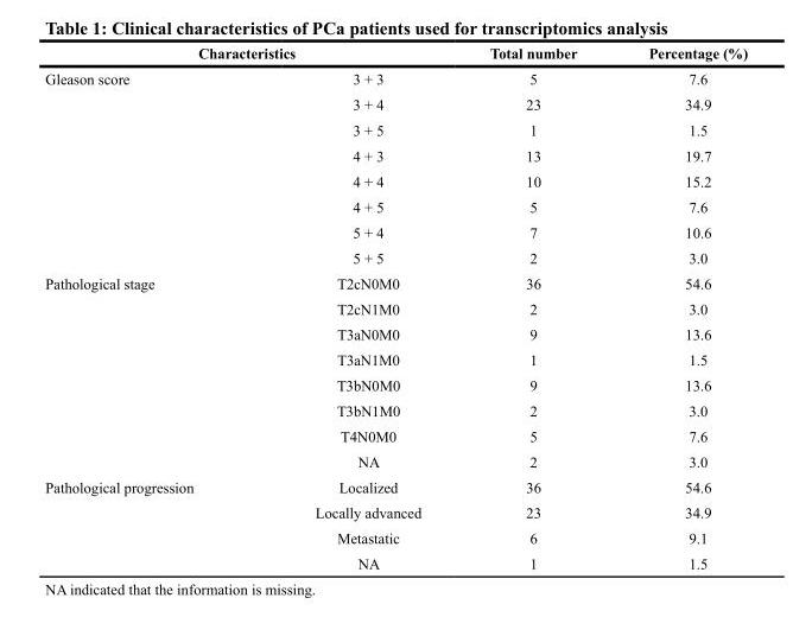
<table><thead><tr><td colspan="2">Characteristics</td><td rowspan="2">Total number 5</td><td rowspan="2">Percentage (%) 7.6</td></tr><tr><td>Gleason score</td><td>3 + 3</td></tr></thead><tbody><tr><td></td><td>3 + 4</td><td>23</td><td>34.9</td></tr><tr><td></td><td>3 + 5</td><td>1</td><td>1.5</td></tr><tr><td></td><td>4 + 3</td><td>13</td><td>19.7</td></tr><tr><td></td><td>4 + 4</td><td>10</td><td>15.2</td></tr><tr><td></td><td>4 + 5</td><td>5</td><td>7.6</td></tr><tr><td></td><td>5 + 4</td><td>7</td><td>10.6</td></tr><tr><td></td><td>5 + 5</td><td>2</td><td>3.0</td></tr><tr><td rowspan="8">Pathological stage</td><td>T2cN0M0</td><td>36</td><td>54.6</td></tr><tr><td>T2cN1M0</td><td>2</td><td>3.0</td></tr><tr><td>T3aN0M0</td><td>9</td><td>13.6</td></tr><tr><td>T3aN1M0</td><td>1</td><td>1.5</td></tr><tr><td>T3bN0M0</td><td>9</td><td>13.6</td></tr><tr><td>T3bN1M0</td><td>2</td><td>3.0</td></tr><tr><td>T4N0M0</td><td>5</td><td>7.6</td></tr><tr><td>NA</td><td>2</td><td>3.0</td></tr><tr><td rowspan="4">Pathological progression</td><td>Localized</td><td>36</td><td>54.6</td></tr><tr><td>Locally advanced</td><td>23</td><td>34.9</td></tr><tr><td>Metastatic</td><td>6</td><td>9.1</td></tr><tr><td>NA</td><td>1</td><td>1.5</td></tr></tbody></table>